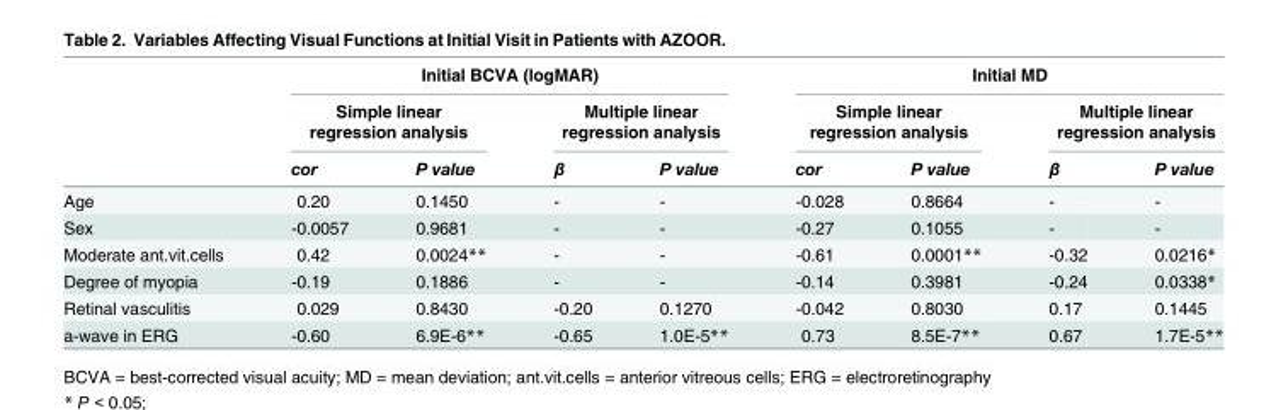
<table><thead><tr><td rowspan="3"></td><td colspan="4">Initial BCVA (logMAR)</td><td colspan="4">Initial MD</td></tr><tr><td colspan="2">Simple linear regression analysis</td><td colspan="2">Multiple linear regression analysis</td><td colspan="2">Simple linear regression analysis</td><td colspan="2">Multiple linear regression analysis</td></tr><tr><td>cor</td><td>P value</td><td>β</td><td>P value</td><td>cor</td><td>P value</td><td>β</td><td>P value</td></tr></thead><tbody><tr><td>Age</td><td>0.20</td><td>0.1450</td><td>-</td><td>-</td><td>-0.028</td><td>0.8664</td><td>-</td><td>-</td></tr><tr><td>Sex</td><td>-0.0057</td><td>0.9681</td><td>-</td><td>-</td><td>-0.27</td><td>0.1055</td><td>-</td><td>-</td></tr><tr><td>Moderate ant.vit.cells</td><td>0.42</td><td>0.0024**</td><td>-</td><td>-</td><td>-0.61</td><td>0.0001**</td><td>-0.32</td><td>0.0216*</td></tr><tr><td>Degree of myopia</td><td>-0.19</td><td>0.1886</td><td>-</td><td>-</td><td>-0.14</td><td>0.3981</td><td>-0.24</td><td>0.0338*</td></tr><tr><td>Retinal vasculitis</td><td>0.029</td><td>0.8430</td><td>-0.20</td><td>0.1270</td><td>-0.042</td><td>0.8030</td><td>0.17</td><td>0.1445</td></tr><tr><td>a-wave in ERG</td><td>-0.60</td><td>6.9E-6**</td><td>-0.65</td><td>1.0E-5**</td><td>0.73</td><td>8.5E-7**</td><td>0.67</td><td>1.7E-5**</td></tr></tbody></table>